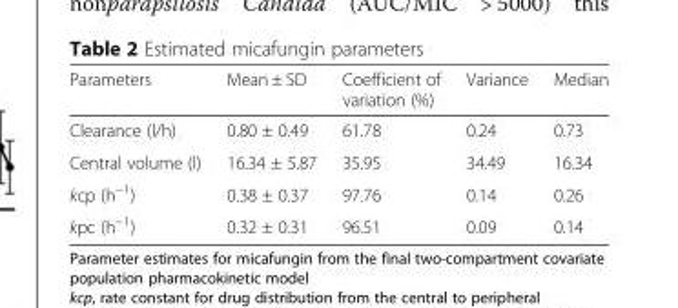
<table><thead><tr><td>Parameters</td><td>Mean ± SD</td><td>Coefficient of variation (%)</td><td>Variance</td><td>Median</td></tr></thead><tbody><tr><td>Clearance (l/h)</td><td>0.80 ± 0.49</td><td>61.78</td><td>0.24</td><td>0.73</td></tr><tr><td>Central volume (l)</td><td>16.34 ± 5.87</td><td>35.95</td><td>34.49</td><td>16.34</td></tr><tr><td>kcp (h<sup>−1</sup>)</td><td>0.38 ± 0.37</td><td>97.76</td><td>0.14</td><td>0.26</td></tr><tr><td>kpc (h<sup>−1</sup>)</td><td>0.32 ± 0.31</td><td>96.51</td><td>0.09</td><td>0.14</td></tr></tbody></table>